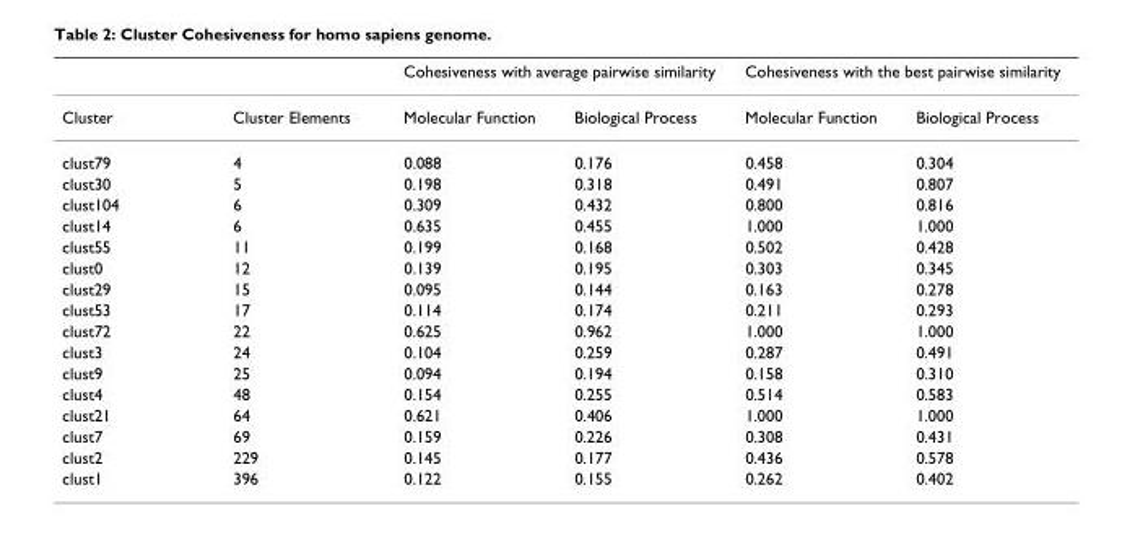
<table><thead><tr><td rowspan="2">Cluster</td><td rowspan="2">Cluster Elements</td><td colspan="2">Cohesiveness with average pairwise similarity</td><td colspan="2">Cohesiveness with the best pairwise similarity</td></tr><tr><td>Molecular Function</td><td>Biological Process</td><td>Molecular Function</td><td>Biological Process</td></tr></thead><tbody><tr><td>clust79</td><td>4</td><td>0.088</td><td>0.176</td><td>0.458</td><td>0.304</td></tr><tr><td>clust30</td><td>5</td><td>0.198</td><td>0.318</td><td>0.491</td><td>0.807</td></tr><tr><td>clust104</td><td>6</td><td>0.309</td><td>0.432</td><td>0.800</td><td>0.816</td></tr><tr><td>clust14</td><td>6</td><td>0.635</td><td>0.455</td><td>1.000</td><td>1.000</td></tr><tr><td>clust55</td><td>11</td><td>0.199</td><td>0.168</td><td>0.502</td><td>0.428</td></tr><tr><td>clust0</td><td>12</td><td>0.139</td><td>0.195</td><td>0.303</td><td>0.345</td></tr><tr><td>clust29</td><td>15</td><td>0.095</td><td>0.144</td><td>0.163</td><td>0.278</td></tr><tr><td>clust53</td><td>17</td><td>0.114</td><td>0.174</td><td>0.211</td><td>0.293</td></tr><tr><td>clust72</td><td>22</td><td>0.625</td><td>0.962</td><td>1.000</td><td>1.000</td></tr><tr><td>clust3</td><td>24</td><td>0.104</td><td>0.259</td><td>0.287</td><td>0.491</td></tr><tr><td>clust9</td><td>25</td><td>0.094</td><td>0.194</td><td>0.158</td><td>0.310</td></tr><tr><td>clust4</td><td>48</td><td>0.154</td><td>0.255</td><td>0.514</td><td>0.583</td></tr><tr><td>clust21</td><td>64</td><td>0.621</td><td>0.406</td><td>1.000</td><td>1.000</td></tr><tr><td>clust7</td><td>69</td><td>0.159</td><td>0.226</td><td>0.308</td><td>0.431</td></tr><tr><td>clust2</td><td>229</td><td>0.145</td><td>0.177</td><td>0.436</td><td>0.578</td></tr><tr><td>clust1</td><td>396</td><td>0.122</td><td>0.155</td><td>0.262</td><td>0.402</td></tr></tbody></table>